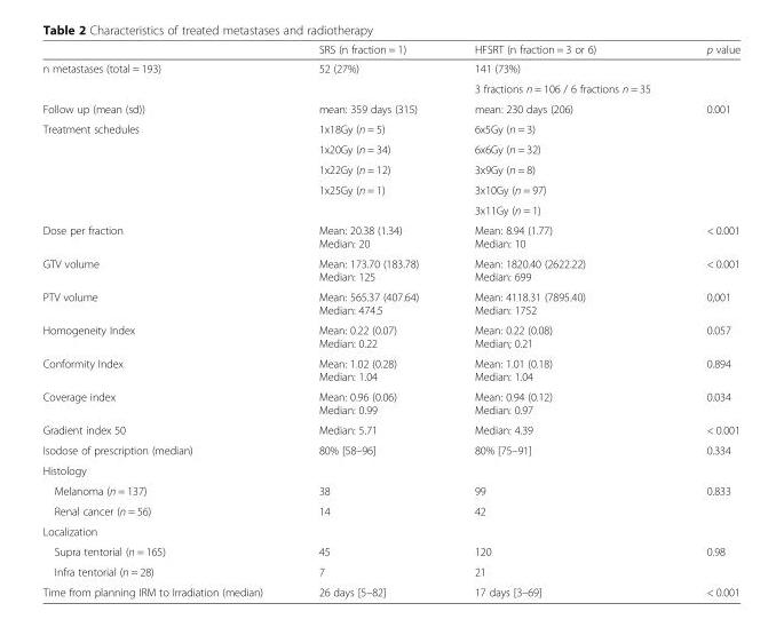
<table><thead><tr><td></td><td>SRS (n fraction = 1)</td><td>HFSRT (n fraction = 3 or 6)</td><td>p value</td></tr></thead><tbody><tr><td rowspan="2">n metastases (total = 193)</td><td>52 (27%)</td><td>141 (73%)</td><td></td></tr><tr><td></td><td>3 fractions n = 106 / 6 fractions n = 35</td><td></td></tr><tr><td>Follow up (mean (sd))</td><td>mean: 359 days (315)</td><td>mean: 230 days (206)</td><td>0.001</td></tr><tr><td rowspan="5">Treatment schedules</td><td>1x18Gy (n = 5)</td><td>6x5Gy (n = 3)</td><td></td></tr><tr><td>1x20Gy (n = 34)</td><td>6x6Gy (n = 32)</td><td></td></tr><tr><td>1x22Gy (n = 12)</td><td>3x9Gy (n = 8)</td><td></td></tr><tr><td>1x25Gy (n = 1)</td><td>3x10Gy (n = 97)</td><td></td></tr><tr><td></td><td>3x11Gy (n = 1)</td><td></td></tr><tr><td>Dose per fraction</td><td>Mean: 20.38 (1.34) Median: 20</td><td>Mean: 8.94 (1.77) Median: 10</td><td>&lt; 0.001</td></tr><tr><td>GTV volume</td><td>Mean: 173.70 (183.78) Median: 125</td><td>Mean: 1820.40 (2622.22) Median: 699</td><td>&lt; 0.001</td></tr><tr><td>PTV volume</td><td>Mean: 565.37 (407.64) Median: 474.5</td><td>Mean: 4118.31 (7895.40) Median: 1752</td><td>0,001</td></tr><tr><td>Homogeneity Index</td><td>Mean: 0.22 (0.07) Median: 0.22</td><td>Mean: 0.22 (0.08) Median; 0.21</td><td>0.057</td></tr><tr><td>Conformity Index</td><td>Mean: 1.02 (0.28) Median: 1.04</td><td>Mean: 1.01 (0.18) Median: 1.04</td><td>0.894</td></tr><tr><td>Coverage index</td><td>Mean: 0.96 (0.06) Median: 0.99</td><td>Mean: 0.94 (0.12) Median: 0.97</td><td>0.034</td></tr><tr><td>Gradient index 50</td><td>Median: 5.71</td><td>Median: 4.39</td><td>&lt; 0.001</td></tr><tr><td>Isodose of prescription (median)</td><td>80% [58–96]</td><td>80% [75–91]</td><td>0.334</td></tr><tr><td colspan="4">Histology</td></tr><tr><td>Melanoma (n = 137)</td><td>38</td><td>99</td><td>0.833</td></tr><tr><td>Renal cancer (n = 56)</td><td>14</td><td>42</td><td></td></tr><tr><td colspan="4">Localization</td></tr><tr><td>Supra tentorial (n = 165)</td><td>45</td><td>120</td><td>0.98</td></tr><tr><td>Infra tentorial (n = 28)</td><td>7</td><td>21</td><td></td></tr><tr><td>Time from planning IRM to Irradiation (median)</td><td>26 days [5–82]</td><td>17 days [3–69]</td><td>&lt; 0.001</td></tr></tbody></table>